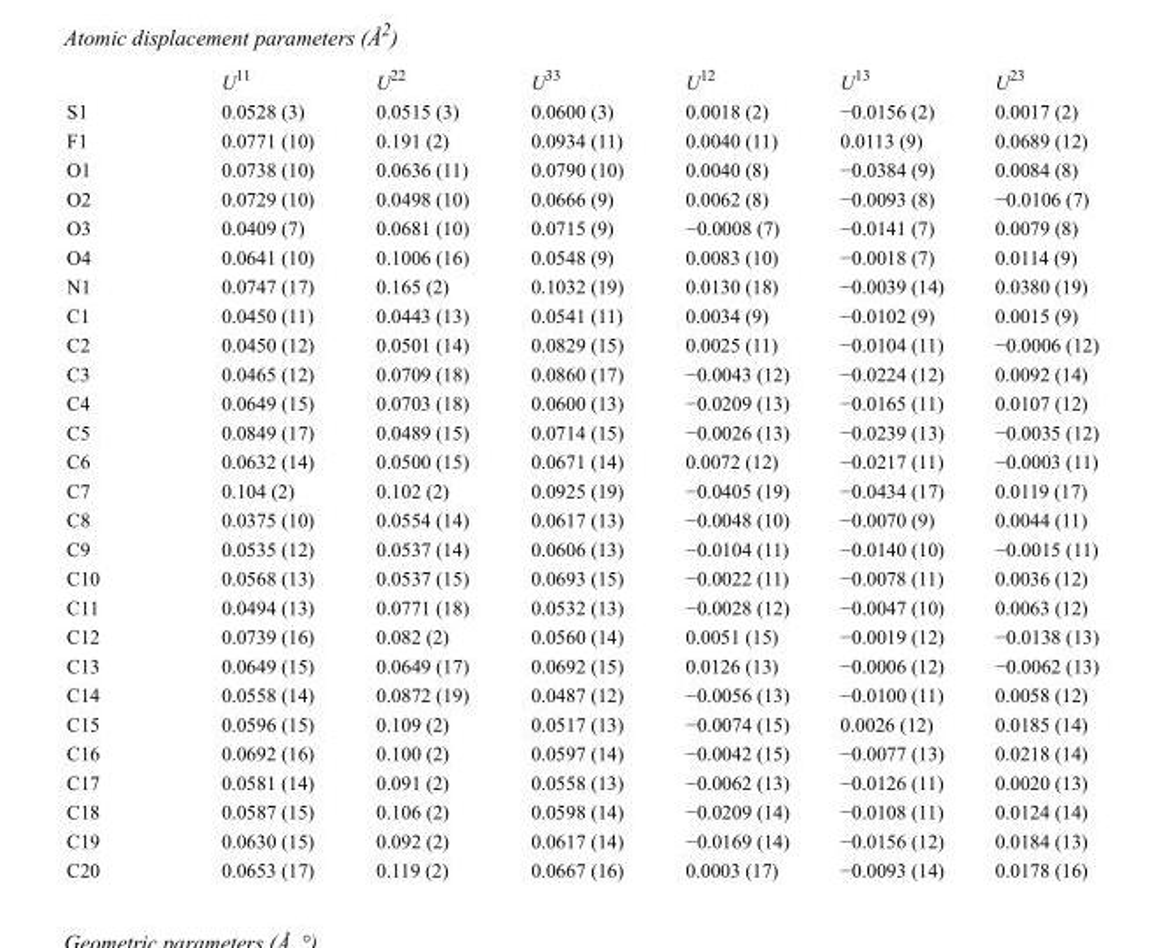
<table><thead><tr><td></td><td>U<sup>11</sup></td><td>U<sup>22</sup></td><td>U<sup>33</sup></td><td>U<sup>12</sup></td><td>U<sup>13</sup></td><td>U<sup>23</sup></td></tr></thead><tbody><tr><td>S1</td><td>0.0528 (3)</td><td>0.0515 (3)</td><td>0.0600 (3)</td><td>0.0018 (2)</td><td>−0.0156 (2)</td><td>0.0017 (2)</td></tr><tr><td>F1</td><td>0.0771 (10)</td><td>0.191 (2)</td><td>0.0934 (11)</td><td>0.0040 (11)</td><td>0.0113 (9)</td><td>0.0689 (12)</td></tr><tr><td>O1</td><td>0.0738 (10)</td><td>0.0636 (11)</td><td>0.0790 (10)</td><td>0.0040 (8)</td><td>−0.0384 (9)</td><td>0.0084 (8)</td></tr><tr><td>O2</td><td>0.0729 (10)</td><td>0.0498 (10)</td><td>0.0666 (9)</td><td>0.0062 (8)</td><td>−0.0093 (8)</td><td>−0.0106 (7)</td></tr><tr><td>O3</td><td>0.0409 (7)</td><td>0.0681 (10)</td><td>0.0715 (9)</td><td>−0.0008 (7)</td><td>−0.0141 (7)</td><td>0.0079 (8)</td></tr><tr><td>O4</td><td>0.0641 (10)</td><td>0.1006 (16)</td><td>0.0548 (9)</td><td>0.0083 (10)</td><td>−0.0018 (7)</td><td>0.0114 (9)</td></tr><tr><td>N1</td><td>0.0747 (17)</td><td>0.165 (2)</td><td>0.1032 (19)</td><td>0.0130 (18)</td><td>−0.0039 (14)</td><td>0.0380 (19)</td></tr><tr><td>C1</td><td>0.0450 (11)</td><td>0.0443 (13)</td><td>0.0541 (11)</td><td>0.0034 (9)</td><td>−0.0102 (9)</td><td>0.0015 (9)</td></tr><tr><td>C2</td><td>0.0450 (12)</td><td>0.0501 (14)</td><td>0.0829 (15)</td><td>0.0025 (11)</td><td>−0.0104 (11)</td><td>−0.0006 (12)</td></tr><tr><td>C3</td><td>0.0465 (12)</td><td>0.0709 (18)</td><td>0.0860 (17)</td><td>−0.0043 (12)</td><td>−0.0224 (12)</td><td>0.0092 (14)</td></tr><tr><td>C4</td><td>0.0649 (15)</td><td>0.0703 (18)</td><td>0.0600 (13)</td><td>−0.0209 (13)</td><td>−0.0165 (11)</td><td>0.0107 (12)</td></tr><tr><td>C5</td><td>0.0849 (17)</td><td>0.0489 (15)</td><td>0.0714 (15)</td><td>−0.0026 (13)</td><td>−0.0239 (13)</td><td>−0.0035 (12)</td></tr><tr><td>C6</td><td>0.0632 (14)</td><td>0.0500 (15)</td><td>0.0671 (14)</td><td>0.0072 (12)</td><td>−0.0217 (11)</td><td>−0.0003 (11)</td></tr><tr><td>C7</td><td>0.104 (2)</td><td>0.102 (2)</td><td>0.0925 (19)</td><td>−0.0405 (19)</td><td>−0.0434 (17)</td><td>0.0119 (17)</td></tr><tr><td>C8</td><td>0.0375 (10)</td><td>0.0554 (14)</td><td>0.0617 (13)</td><td>−0.0048 (10)</td><td>−0.0070 (9)</td><td>0.0044 (11)</td></tr><tr><td>C9</td><td>0.0535 (12)</td><td>0.0537 (14)</td><td>0.0606 (13)</td><td>−0.0104 (11)</td><td>−0.0140 (10)</td><td>−0.0015 (11)</td></tr><tr><td>C10</td><td>0.0568 (13)</td><td>0.0537 (15)</td><td>0.0693 (15)</td><td>−0.0022 (11)</td><td>−0.0078 (11)</td><td>0.0036 (12)</td></tr><tr><td>C11</td><td>0.0494 (13)</td><td>0.0771 (18)</td><td>0.0532 (13)</td><td>−0.0028 (12)</td><td>−0.0047 (10)</td><td>0.0063 (12)</td></tr><tr><td>C12</td><td>0.0739 (16)</td><td>0.082 (2)</td><td>0.0560 (14)</td><td>0.0051 (15)</td><td>−0.0019 (12)</td><td>−0.0138 (13)</td></tr><tr><td>C13</td><td>0.0649 (15)</td><td>0.0649 (17)</td><td>0.0692 (15)</td><td>0.0126 (13)</td><td>−0.0006 (12)</td><td>−0.0062 (13)</td></tr><tr><td>C14</td><td>0.0558 (14)</td><td>0.0872 (19)</td><td>0.0487 (12)</td><td>−0.0056 (13)</td><td>−0.0100 (11)</td><td>0.0058 (12)</td></tr><tr><td>C15</td><td>0.0596 (15)</td><td>0.109 (2)</td><td>0.0517 (13)</td><td>−0.0074 (15)</td><td>0.0026 (12)</td><td>0.0185 (14)</td></tr><tr><td>C16</td><td>0.0692 (16)</td><td>0.100 (2)</td><td>0.0597 (14)</td><td>−0.0042 (15)</td><td>−0.0077 (13)</td><td>0.0218 (14)</td></tr><tr><td>C17</td><td>0.0581 (14)</td><td>0.091 (2)</td><td>0.0558 (13)</td><td>−0.0062 (13)</td><td>−0.0126 (11)</td><td>0.0020 (13)</td></tr><tr><td>C18</td><td>0.0587 (15)</td><td>0.106 (2)</td><td>0.0598 (14)</td><td>−0.0209 (14)</td><td>−0.0108 (11)</td><td>0.0124 (14)</td></tr><tr><td>C19</td><td>0.0630 (15)</td><td>0.092 (2)</td><td>0.0617 (14)</td><td>−0.0169 (14)</td><td>−0.0156 (12)</td><td>0.0184 (13)</td></tr><tr><td>C20</td><td>0.0653 (17)</td><td>0.119 (2)</td><td>0.0667 (16)</td><td>0.0003 (17)</td><td>−0.0093 (14)</td><td>0.0178 (16)</td></tr></tbody></table>